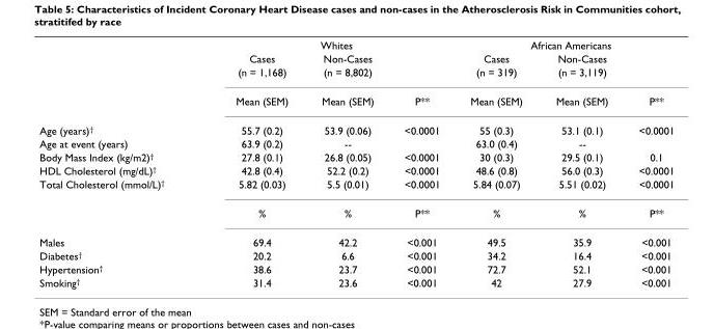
<table><thead><tr><td rowspan="2"></td><td colspan="3">Whites</td><td colspan="3">African Americans</td></tr><tr><td>Cases</td><td>Non-Cases</td><td></td><td>Cases</td><td>Non-Cases</td><td></td></tr></thead><tbody><tr><td></td><td>(n = 1,168)</td><td>(n = 8,802)</td><td></td><td>(n = 319)</td><td>(n = 3,119)</td><td></td></tr><tr><td></td><td>Mean (SEM)</td><td>Mean (SEM)</td><td>P**</td><td>Mean (SEM)</td><td>Mean (SEM)</td><td>P**</td></tr><tr><td>Age (years)<sup>†</sup></td><td>55.7 (0.2)</td><td>53.9 (0.06)</td><td>&lt;0.0001</td><td>55 (0.3)</td><td>53.1 (0.1)</td><td>&lt;0.0001</td></tr><tr><td>Age at event (years)</td><td>63.9 (0.2)</td><td>--</td><td></td><td>63.0 (0.4)</td><td>--</td><td></td></tr><tr><td>Body Mass Index (kg/m2)<sup>†</sup></td><td>27.8 (0.1)</td><td>26.8 (0.05)</td><td>&lt;0.0001</td><td>30 (0.3)</td><td>29.5 (0.1)</td><td>0.1</td></tr><tr><td>HDL Cholesterol (mg/dL)<sup>†</sup></td><td>42.8 (0.4)</td><td>52.2 (0.2)</td><td>&lt;0.0001</td><td>48.6 (0.8)</td><td>56.0 (0.3)</td><td>&lt;0.0001</td></tr><tr><td rowspan="2">Total Cholesterol (mmol/L)<sup>†</sup></td><td>5.82 (0.03)</td><td>5.5 (0.01)</td><td>&lt;0.0001</td><td>5.84 (0.07)</td><td>5.51 (0.02)</td><td>&lt;0.0001</td></tr><tr><td>%</td><td>%</td><td>P**</td><td>%</td><td>%</td><td>P**</td></tr><tr><td>Males</td><td>69.4</td><td>42.2</td><td>&lt;0.001</td><td>49.5</td><td>35.9</td><td>&lt;0.001</td></tr><tr><td>Diabetes<sup>†</sup></td><td>20.2</td><td>6.6</td><td>&lt;0.001</td><td>34.2</td><td>16.4</td><td>&lt;0.001</td></tr><tr><td>Hypertension<sup>†</sup></td><td>38.6</td><td>23.7</td><td>&lt;0.001</td><td>72.7</td><td>52.1</td><td>&lt;0.001</td></tr><tr><td>Smoking<sup>†</sup></td><td>31.4</td><td>23.6</td><td>&lt;0.001</td><td>42</td><td>27.9</td><td>&lt;0.001</td></tr></tbody></table>